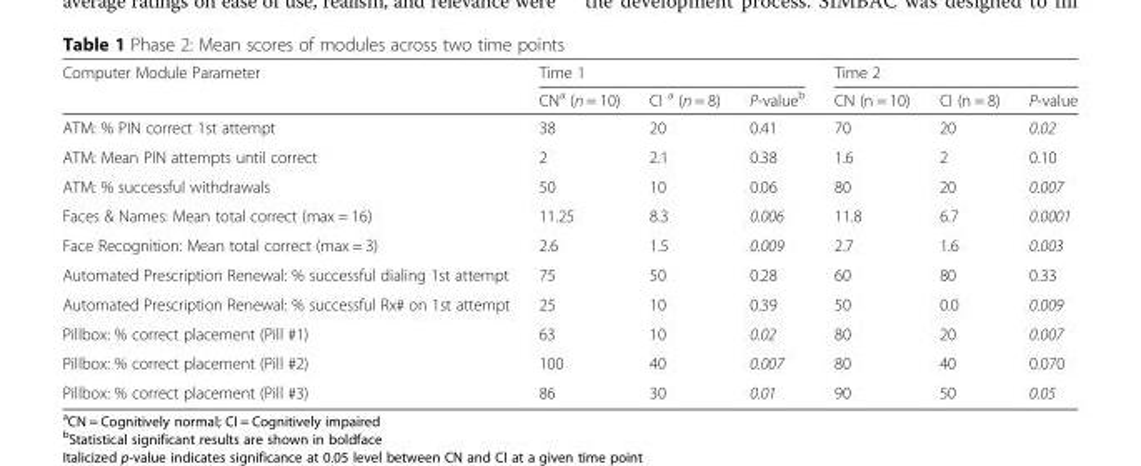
<table><thead><tr><td rowspan="2">Computer Module Parameter</td><td colspan="3">Time 1</td><td colspan="3">Time 2</td></tr><tr><td>CN<sup>a</sup> (n = 10)</td><td>CI <sup>a</sup> (n = 8)</td><td>P-value<sup>b</sup></td><td>CN (n = 10)</td><td>CI (n = 8)</td><td>P-value</td></tr></thead><tbody><tr><td>ATM: % PIN correct 1st attempt</td><td>38</td><td>20</td><td>0.41</td><td>70</td><td>20</td><td>0.02</td></tr><tr><td>ATM: Mean PIN attempts until correct</td><td>2</td><td>2.1</td><td>0.38</td><td>1.6</td><td>2</td><td>0.10</td></tr><tr><td>ATM: % successful withdrawals</td><td>50</td><td>10</td><td>0.06</td><td>80</td><td>20</td><td>0.007</td></tr><tr><td>Faces &amp; Names: Mean total correct (max = 16)</td><td>11.25</td><td>8.3</td><td>0.006</td><td>11.8</td><td>6.7</td><td>0.0001</td></tr><tr><td>Face Recognition: Mean total correct (max = 3)</td><td>2.6</td><td>1.5</td><td>0.009</td><td>2.7</td><td>1.6</td><td>0.003</td></tr><tr><td>Automated Prescription Renewal: % successful dialing 1st attempt</td><td>75</td><td>50</td><td>0.28</td><td>60</td><td>80</td><td>0.33</td></tr><tr><td>Automated Prescription Renewal: % successful Rx# on 1st attempt</td><td>25</td><td>10</td><td>0.39</td><td>50</td><td>0.0</td><td>0.009</td></tr><tr><td>Pillbox: % correct placement (Pill #1)</td><td>63</td><td>10</td><td>0.02</td><td>80</td><td>20</td><td>0.007</td></tr><tr><td>Pillbox: % correct placement (Pill #2)</td><td>100</td><td>40</td><td>0.007</td><td>80</td><td>40</td><td>0.070</td></tr><tr><td>Pillbox: % correct placement (Pill #3)</td><td>86</td><td>30</td><td>0.01</td><td>90</td><td>50</td><td>0.05</td></tr></tbody></table>